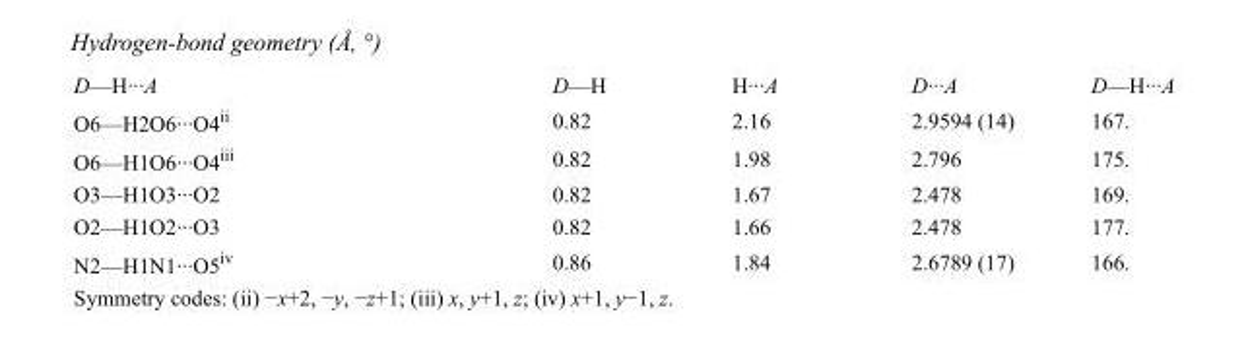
<table><tbody><tr><td>D—H···A</td><td>D—H</td><td>H···A</td><td>D···A</td><td>D—H···A</td></tr><tr><td>O6—H2O6···O4<sup>ii</sup></td><td>0.82</td><td>2.16</td><td>2.9594 (14)</td><td>167.</td></tr><tr><td>O6—H1O6···O4<sup>iii</sup></td><td>0.82</td><td>1.98</td><td>2.796</td><td>175.</td></tr><tr><td>O3—H1O3···O2</td><td>0.82</td><td>1.67</td><td>2.478</td><td>169.</td></tr><tr><td>O2—H1O2···O3</td><td>0.82</td><td>1.66</td><td>2.478</td><td>177.</td></tr><tr><td>N2—H1N1···O5<sup>iv</sup></td><td>0.86</td><td>1.84</td><td>2.6789 (17)</td><td>166.</td></tr></tbody></table>